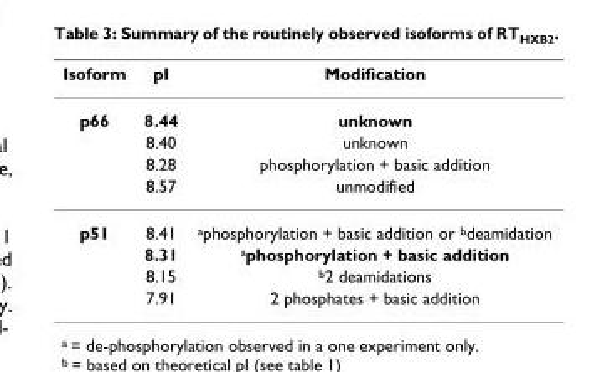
<table><thead><tr><td>Isoform</td><td>pI</td><td>Modification</td></tr></thead><tbody><tr><td rowspan="4">p66</td><td>8.44</td><td>unknown</td></tr><tr><td>8.40</td><td>unknown</td></tr><tr><td>8.28</td><td>phosphorylation + basic addition</td></tr><tr><td>8.57</td><td>unmodified</td></tr><tr><td rowspan="4">p51</td><td>8.41</td><td><sup>a</sup>phosphorylation + basic addition or <sup>b</sup>deamidation</td></tr><tr><td>8.31</td><td><sup>a</sup>phosphorylation + basic addition</td></tr><tr><td>8.15</td><td><sup>b</sup>2 deamidations</td></tr><tr><td>7.91</td><td>2 phosphates + basic addition</td></tr></tbody></table>